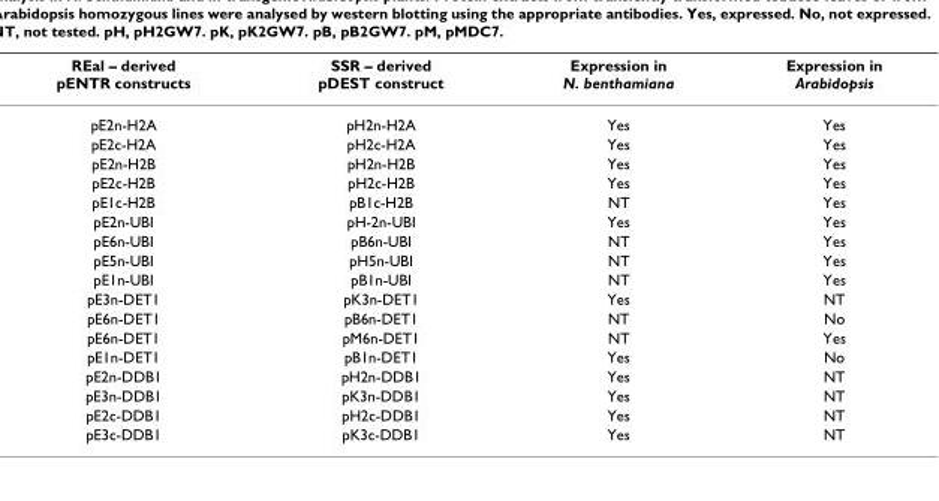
<table><thead><tr><td>REal – derived pENTR constructs</td><td>SSR – derived pDEST construct</td><td>Expression in N. benthamiana</td><td>Expression in Arabidopsis</td></tr></thead><tbody><tr><td>pE2n-H2A</td><td>pH2n-H2A</td><td>Yes</td><td>Yes</td></tr><tr><td>pE2c-H2A</td><td>pH2c-H2A</td><td>Yes</td><td>Yes</td></tr><tr><td>pE2n-H2B</td><td>pH2n-H2B</td><td>Yes</td><td>Yes</td></tr><tr><td>pE2c-H2B</td><td>pH2c-H2B</td><td>Yes</td><td>Yes</td></tr><tr><td>pE1c-H2B</td><td>pB1c-H2B</td><td>NT</td><td>Yes</td></tr><tr><td>pE2n-UBI</td><td>pH-2n-UBI</td><td>Yes</td><td>Yes</td></tr><tr><td>pE6n-UBI</td><td>pB6n-UBI</td><td>NT</td><td>Yes</td></tr><tr><td>pE5n-UBI</td><td>pH5n-UBI</td><td>NT</td><td>Yes</td></tr><tr><td>pE1n-UBI</td><td>pB1n-UBI</td><td>NT</td><td>Yes</td></tr><tr><td>pE3n-DET1</td><td>pK3n-DET1</td><td>Yes</td><td>NT</td></tr><tr><td>pE6n-DET1</td><td>pB6n-DET1</td><td>NT</td><td>No</td></tr><tr><td>pE6n-DET1</td><td>pM6n-DET1</td><td>NT</td><td>Yes</td></tr><tr><td>pE1n-DET1</td><td>pB1n-DET1</td><td>Yes</td><td>No</td></tr><tr><td>pE2n-DDB1</td><td>pH2n-DDB1</td><td>Yes</td><td>NT</td></tr><tr><td>pE3n-DDB1</td><td>pK3n-DDB1</td><td>Yes</td><td>NT</td></tr><tr><td>pE2c-DDB1</td><td>pH2c-DDB1</td><td>Yes</td><td>NT</td></tr><tr><td>pE3c-DDB1</td><td>pK3c-DDB1</td><td>Yes</td><td>NT</td></tr></tbody></table>